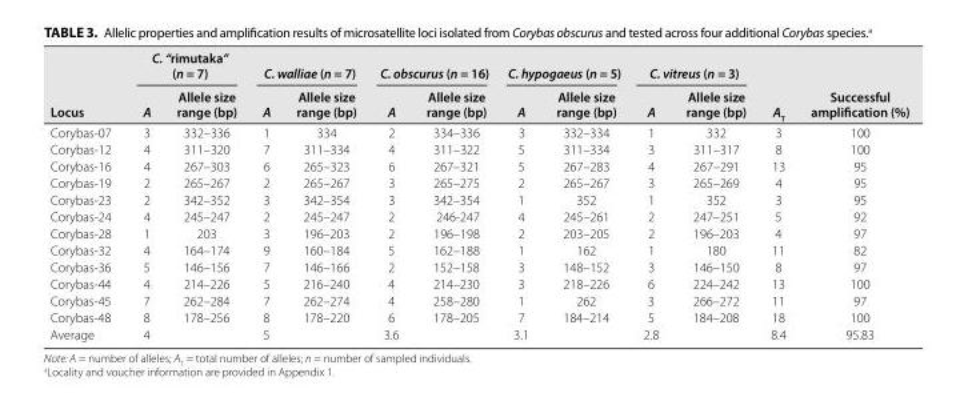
<table><thead><tr><td rowspan="2">Locus</td><td colspan="2">C. “rimutaka” (n = 7)</td><td colspan="2">C. walliae (n = 7)</td><td colspan="2">C. obscurus (n = 16)</td><td colspan="2">C. hypogaeus (n = 5)</td><td colspan="2">C. vitreus (n = 3)</td><td rowspan="2">A<sub>T</sub></td><td rowspan="2">Successful amplification (%)</td></tr><tr><td>A</td><td>Allele size range (bp)</td><td>A</td><td>Allele size range (bp)</td><td>A</td><td>Allele size range (bp)</td><td>A</td><td>Allele size range (bp)</td><td>A</td><td>Allele size range (bp)</td></tr></thead><tbody><tr><td>Corybas- 07</td><td>3</td><td>332–336</td><td>1</td><td>334</td><td>2</td><td>334–336</td><td>3</td><td>332–334</td><td>1</td><td>332</td><td>3</td><td>100</td></tr><tr><td>Corybas- 12</td><td>4</td><td>311–320</td><td>7</td><td>311–334</td><td>4</td><td>311– 322</td><td>5</td><td>311–334</td><td>3</td><td>311–317</td><td>8</td><td>100</td></tr><tr><td>Corybas- 16</td><td>4</td><td>267–303</td><td>6</td><td>265–323</td><td>6</td><td>267–321</td><td>5</td><td>267–283</td><td>4</td><td>267–291</td><td>13</td><td>95</td></tr><tr><td>Corybas- 19</td><td>2</td><td>265–267</td><td>2</td><td>265–267</td><td>3</td><td>265–275</td><td>2</td><td>265–267</td><td>3</td><td>265–269</td><td>4</td><td>95</td></tr><tr><td>Corybas- 23</td><td>2</td><td>342–352</td><td>3</td><td>342–354</td><td>3</td><td>342–354</td><td>1</td><td>352</td><td>1</td><td>352</td><td>3</td><td>95</td></tr><tr><td>Corybas- 24</td><td>4</td><td>245–247</td><td>2</td><td>245–247</td><td>2</td><td>246- 247</td><td>4</td><td>245–261</td><td>2</td><td>247–251</td><td>5</td><td>92</td></tr><tr><td>Corybas- 28</td><td>1</td><td>203</td><td>3</td><td>196–203</td><td>2</td><td>196–198</td><td>2</td><td>203–205</td><td>2</td><td>196–203</td><td>4</td><td>97</td></tr><tr><td>Corybas- 32</td><td>4</td><td>164–174</td><td>9</td><td>160–184</td><td>5</td><td>162–188</td><td>1</td><td>162</td><td>1</td><td>180</td><td>11</td><td>82</td></tr><tr><td>Corybas- 36</td><td>5</td><td>146–156</td><td>7</td><td>146–166</td><td>2</td><td>152–158</td><td>3</td><td>148–152</td><td>3</td><td>146–150</td><td>8</td><td>97</td></tr><tr><td>Corybas- 44</td><td>4</td><td>214–226</td><td>5</td><td>216–240</td><td>4</td><td>214–230</td><td>3</td><td>218–226</td><td>6</td><td>224–242</td><td>13</td><td>100</td></tr><tr><td>Corybas- 45</td><td>7</td><td>262–284</td><td>7</td><td>262–274</td><td>4</td><td>258–280</td><td>1</td><td>262</td><td>3</td><td>266–272</td><td>11</td><td>97</td></tr><tr><td>Corybas- 48</td><td>8</td><td>178–256</td><td>8</td><td>178–220</td><td>6</td><td>178–205</td><td>7</td><td>184–214</td><td>5</td><td>184–208</td><td>18</td><td>100</td></tr><tr><td>Average</td><td>4</td><td></td><td>5</td><td></td><td>3.6</td><td></td><td>3.1</td><td></td><td>2.8</td><td></td><td>8.4</td><td>95.83</td></tr></tbody></table>